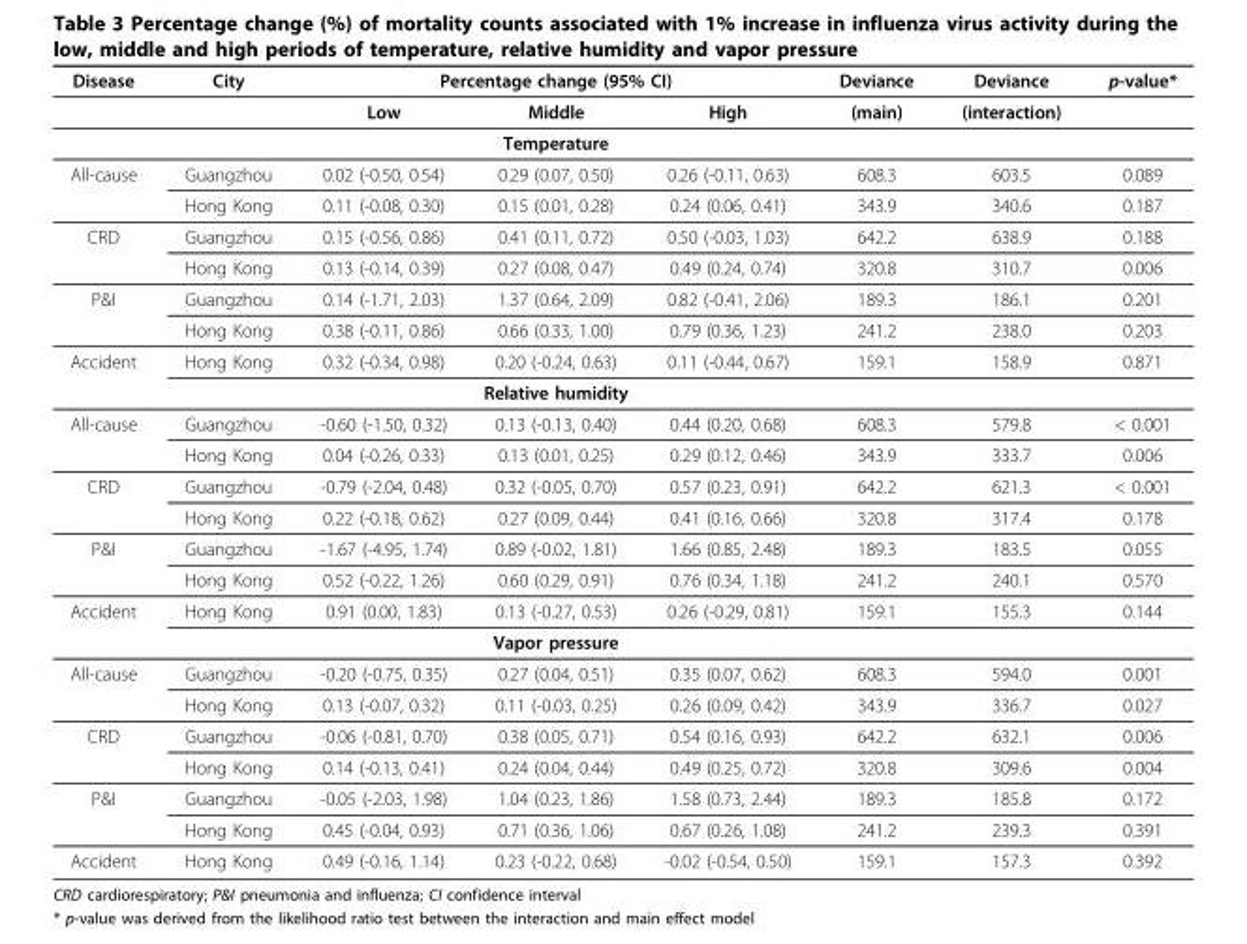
<table><thead><tr><td rowspan="2">Disease</td><td rowspan="2">City</td><td colspan="3">Percentage change (95% CI)</td><td rowspan="2">Deviance (main)</td><td rowspan="2">Deviance (interaction)</td><td rowspan="2">p-value*</td></tr><tr><td>Low</td><td>Middle</td><td>High</td></tr></thead><tbody><tr><td></td><td></td><td colspan="3">Temperature</td><td></td><td></td><td></td></tr><tr><td rowspan="2">All-cause</td><td>Guangzhou</td><td>0.02 (-0.50, 0.54)</td><td>0.29 (0.07, 0.50)</td><td>0.26 (-0.11, 0.63)</td><td>608.3</td><td>603.5</td><td>0.089</td></tr><tr><td>Hong Kong</td><td>0.11 (-0.08, 0.30)</td><td>0.15 (0.01, 0.28)</td><td>0.24 (0.06, 0.41)</td><td>343.9</td><td>340.6</td><td>0.187</td></tr><tr><td rowspan="2">CRD</td><td>Guangzhou</td><td>0.15 (-0.56, 0.86)</td><td>0.41 (0.11, 0.72)</td><td>0.50 (-0.03, 1.03)</td><td>642.2</td><td>638.9</td><td>0.188</td></tr><tr><td>Hong Kong</td><td>0.13 (-0.14, 0.39)</td><td>0.27 (0.08, 0.47)</td><td>0.49 (0.24, 0.74)</td><td>320.8</td><td>310.7</td><td>0.006</td></tr><tr><td rowspan="2">P&amp;I</td><td>Guangzhou</td><td>0.14 (-1.71, 2.03)</td><td>1.37 (0.64, 2.09)</td><td>0.82 (-0.41, 2.06)</td><td>189.3</td><td>186.1</td><td>0.201</td></tr><tr><td>Hong Kong</td><td>0.38 (-0.11, 0.86)</td><td>0.66 (0.33, 1.00)</td><td>0.79 (0.36, 1.23)</td><td>241.2</td><td>238.0</td><td>0.203</td></tr><tr><td rowspan="2">Accident</td><td>Hong Kong</td><td>0.32 (-0.34, 0.98)</td><td>0.20 (-0.24, 0.63)</td><td>0.11 (-0.44, 0.67)</td><td>159.1</td><td>158.9</td><td>0.871</td></tr><tr><td></td><td colspan="3">Relative humidity</td><td></td><td></td><td></td></tr><tr><td rowspan="2">All-cause</td><td>Guangzhou</td><td>-0.60 (-1.50, 0.32)</td><td>0.13 (-0.13, 0.40)</td><td>0.44 (0.20, 0.68)</td><td>608.3</td><td>579.8</td><td>&lt; 0.001</td></tr><tr><td>Hong Kong</td><td>0.04 (-0.26, 0.33)</td><td>0.13 (0.01, 0.25)</td><td>0.29 (0.12, 0.46)</td><td>343.9</td><td>333.7</td><td>0.006</td></tr><tr><td rowspan="2">CRD</td><td>Guangzhou</td><td>-0.79 (-2.04, 0.48)</td><td>0.32 (-0.05, 0.70)</td><td>0.57 (0.23, 0.91)</td><td>642.2</td><td>621.3</td><td>&lt; 0.001</td></tr><tr><td>Hong Kong</td><td>0.22 (-0.18, 0.62)</td><td>0.27 (0.09, 0.44)</td><td>0.41 (0.16, 0.66)</td><td>320.8</td><td>317.4</td><td>0.178</td></tr><tr><td rowspan="2">P&amp;I</td><td>Guangzhou</td><td>-1.67 (-4.95, 1.74)</td><td>0.89 (-0.02, 1.81)</td><td>1.66 (0.85, 2.48)</td><td>189.3</td><td>183.5</td><td>0.055</td></tr><tr><td>Hong Kong</td><td>0.52 (-0.22, 1.26)</td><td>0.60 (0.29, 0.91)</td><td>0.76 (0.34, 1.18)</td><td>241.2</td><td>240.1</td><td>0.570</td></tr><tr><td rowspan="2">Accident</td><td>Hong Kong</td><td>0.91 (0.00, 1.83)</td><td>0.13 (-0.27, 0.53)</td><td>0.26 (-0.29, 0.81)</td><td>159.1</td><td>155.3</td><td>0.144</td></tr><tr><td></td><td colspan="3">Vapor pressure</td><td></td><td></td><td></td></tr><tr><td rowspan="2">All-cause</td><td>Guangzhou</td><td>-0.20 (-0.75, 0.35)</td><td>0.27 (0.04, 0.51)</td><td>0.35 (0.07, 0.62)</td><td>608.3</td><td>594.0</td><td>0.001</td></tr><tr><td>Hong Kong</td><td>0.13 (-0.07, 0.32)</td><td>0.11 (-0.03, 0.25)</td><td>0.26 (0.09, 0.42)</td><td>343.9</td><td>336.7</td><td>0.027</td></tr><tr><td rowspan="2">CRD</td><td>Guangzhou</td><td>-0.06 (-0.81, 0.70)</td><td>0.38 (0.05, 0.71)</td><td>0.54 (0.16, 0.93)</td><td>642.2</td><td>632.1</td><td>0.006</td></tr><tr><td>Hong Kong</td><td>0.14 (-0.13, 0.41)</td><td>0.24 (0.04, 0.44)</td><td>0.49 (0.25, 0.72)</td><td>320.8</td><td>309.6</td><td>0.004</td></tr><tr><td rowspan="2">P&amp;I</td><td>Guangzhou</td><td>-0.05 (-2.03, 1.98)</td><td>1.04 (0.23, 1.86)</td><td>1.58 (0.73, 2.44)</td><td>189.3</td><td>185.8</td><td>0.172</td></tr><tr><td>Hong Kong</td><td>0.45 (-0.04, 0.93)</td><td>0.71 (0.36, 1.06)</td><td>0.67 (0.26, 1.08)</td><td>241.2</td><td>239.3</td><td>0.391</td></tr><tr><td>Accident</td><td>Hong Kong</td><td>0.49 (-0.16, 1.14)</td><td>0.23 (-0.22, 0.68)</td><td>-0.02 (-0.54, 0.50)</td><td>159.1</td><td>157.3</td><td>0.392</td></tr></tbody></table>